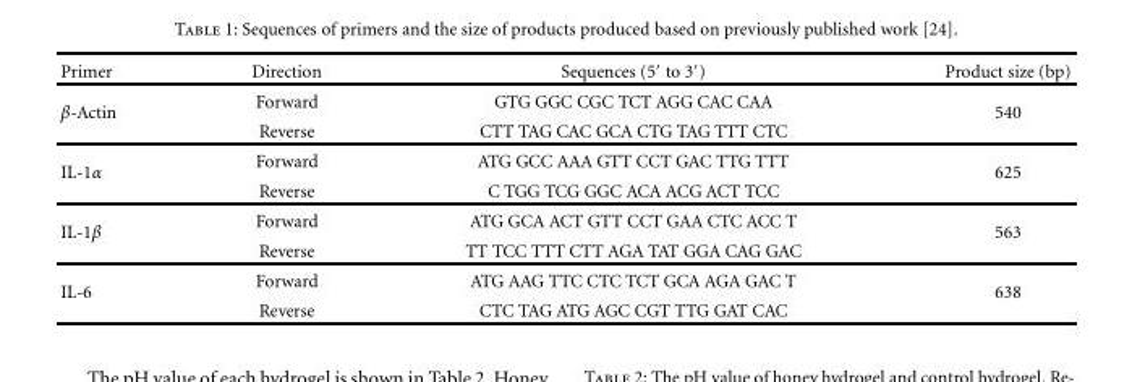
<table><thead><tr><td>Primer</td><td>Direction</td><td>Sequences (5′ to 3′)</td><td>Product size (bp)</td></tr></thead><tbody><tr><td rowspan="2">β-Actin</td><td>Forward</td><td>GTG GGC CGC TCT AGG CAC CAA</td><td rowspan="2">540</td></tr><tr><td>Reverse</td><td>CTT TAG CAC GCA CTG TAG TTT CTC</td></tr><tr><td rowspan="2">IL-1α</td><td>Forward</td><td>ATG GCC AAA GTT CCT GAC TTG TTT</td><td rowspan="2">625</td></tr><tr><td>Reverse</td><td>C TGG TCG GGC ACA ACG ACT TCC</td></tr><tr><td rowspan="2">IL-1β</td><td>Forward</td><td>ATG GCA ACT GTT CCT GAA CTC ACC T</td><td rowspan="2">563</td></tr><tr><td>Reverse</td><td>TT TCC TTT CTT AGA TAT GGA CAG GAC</td></tr><tr><td rowspan="2">IL-6</td><td>Forward</td><td>ATG AAG TTC CTC TCT GCA AGA GAC T</td><td rowspan="2">638</td></tr><tr><td>Reverse</td><td>CTC TAG ATG AGC CGT TTG GAT CAC</td></tr></tbody></table>